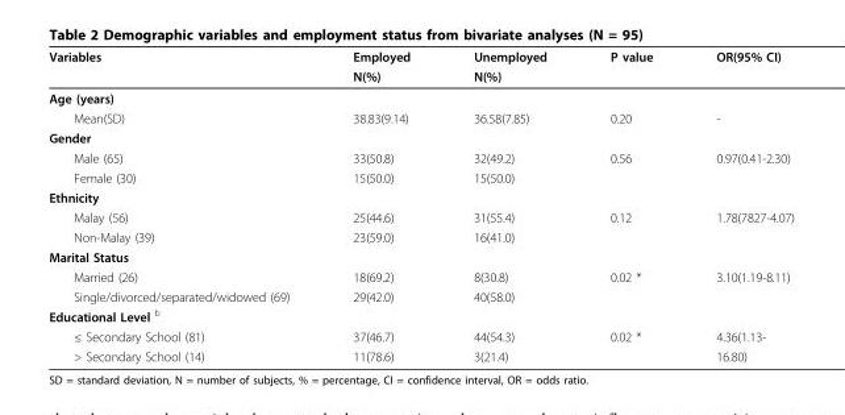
<table><thead><tr><td rowspan="2">Variables</td><td rowspan="2">Employed N(%)</td><td rowspan="2">Unemployed N(%)</td><td rowspan="2">P value</td><td rowspan="2">OR(95% CI)</td></tr><tr></tr></thead><tbody><tr><td colspan="5">Age (years)</td></tr><tr><td>Mean(SD)</td><td>38.83(9.14)</td><td>36.58(7.85)</td><td>0.20</td><td>-</td></tr><tr><td colspan="5">Gender</td></tr><tr><td>Male (65)</td><td>33(50.8)</td><td>32(49.2)</td><td>0.56</td><td>0.97(0.41-2.30)</td></tr><tr><td>Female (30)</td><td>15(50.0)</td><td>15(50.0)</td><td></td><td></td></tr><tr><td colspan="5">Ethnicity</td></tr><tr><td>Malay (56)</td><td>25(44.6)</td><td>31(55.4)</td><td>0.12</td><td>1.78(7827-4.07)</td></tr><tr><td>Non-Malay (39)</td><td>23(59.0)</td><td>16(41.0)</td><td></td><td></td></tr><tr><td colspan="5">Marital Status</td></tr><tr><td>Married (26)</td><td>18(69.2)</td><td>8(30.8)</td><td>0.02 *</td><td>3.10(1.19-8.11)</td></tr><tr><td>Single/divorced/separated/widowed (69)</td><td>29(42.0)</td><td>40(58.0)</td><td></td><td></td></tr><tr><td colspan="5">Educational Level <sup>b</sup></td></tr><tr><td>≤ Secondary School (81)</td><td>37(46.7)</td><td>44(54.3)</td><td>0.02 *</td><td>4.36(1.13-</td></tr><tr><td>&gt; Secondary School (14)</td><td>11(78.6)</td><td>3(21.4)</td><td></td><td>16.80)</td></tr></tbody></table>